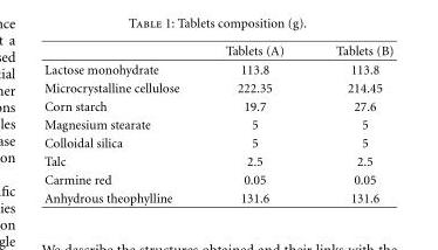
<table><thead><tr><td></td><td>Tablets (A)</td><td>Tablets (B)</td></tr></thead><tbody><tr><td>Lactose monohydrate</td><td>113.8</td><td>113.8</td></tr><tr><td>Microcrystalline cellulose</td><td>222.35</td><td>214.45</td></tr><tr><td>Corn starch</td><td>19.7</td><td>27.6</td></tr><tr><td>Magnesium stearate</td><td>5</td><td>5</td></tr><tr><td>Colloidal silica</td><td>5</td><td>5</td></tr><tr><td>Talc</td><td>2.5</td><td>2.5</td></tr><tr><td>Carmine red</td><td>0.05</td><td>0.05</td></tr><tr><td>Anhydrous theophylline</td><td>131.6</td><td>131.6</td></tr></tbody></table>